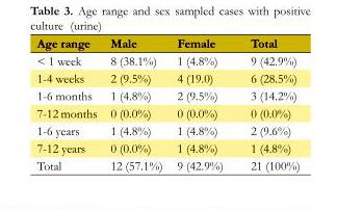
<table><tbody><tr><td>Age range</td><td>Male</td><td>Female</td><td>Total</td></tr><tr><td>&lt; 1 week</td><td>8 (38.1%)</td><td>1 (4.8%)</td><td>9 (42.9%)</td></tr><tr><td>1-4 weeks</td><td>2 (9.5%)</td><td>4 (19.0)</td><td>6 (28.5%)</td></tr><tr><td>1-6 months</td><td>1 (4.8%)</td><td>2 (9.5%)</td><td>3 (14.2%)</td></tr><tr><td>7-12 months</td><td>0 (0.0%)</td><td>0 (0.0%)</td><td>0 (0.0%)</td></tr><tr><td>1-6 years</td><td>1 (4.8%)</td><td>1 (4.8%)</td><td>2 (9.6%)</td></tr><tr><td>7-12 years</td><td>0 (0.0%)</td><td>1 (4.8%)</td><td>1 (4.8%)</td></tr><tr><td>Total</td><td>12 (57.1%)</td><td>9 (42.9%)</td><td>21 (100%)</td></tr></tbody></table>